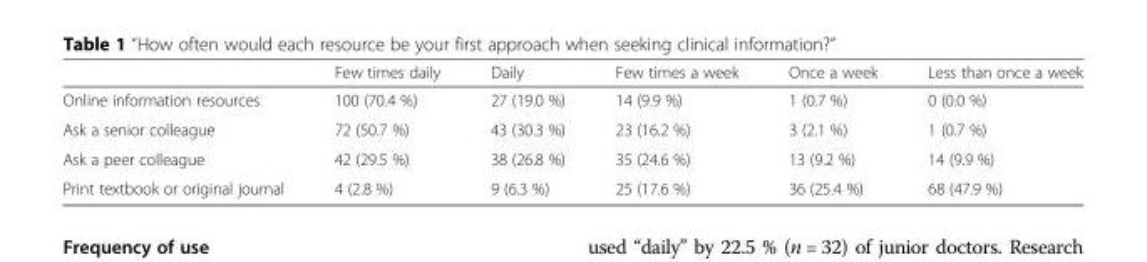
<table><thead><tr><td></td><td>Few times daily</td><td>Daily</td><td>Few times a week</td><td>Once a week</td><td>Less than once a week</td></tr></thead><tbody><tr><td>Online information resources</td><td>100 (70.4 %)</td><td>27 (19.0 %)</td><td>14 (9.9 %)</td><td>1 (0.7 %)</td><td>0 (0.0 %)</td></tr><tr><td>Ask a senior colleague</td><td>72 (50.7 %)</td><td>43 (30.3 %)</td><td>23 (16.2 %)</td><td>3 (2.1 %)</td><td>1 (0.7 %)</td></tr><tr><td>Ask a peer colleague</td><td>42 (29.5 %)</td><td>38 (26.8 %)</td><td>35 (24.6 %)</td><td>13 (9.2 %)</td><td>14 (9.9 %)</td></tr><tr><td>Print textbook or original journal</td><td>4 (2.8 %)</td><td>9 (6.3 %)</td><td>25 (17.6 %)</td><td>36 (25.4 %)</td><td>68 (47.9 %)</td></tr></tbody></table>